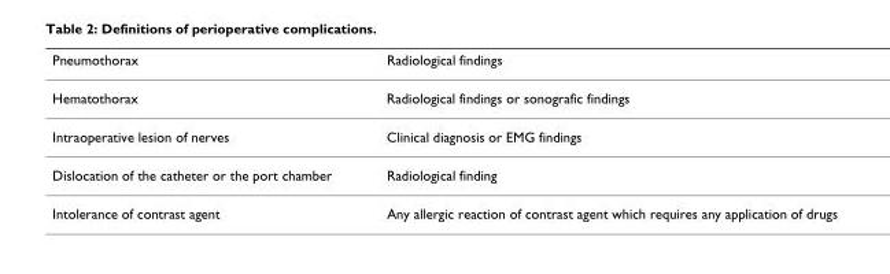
<table><thead><tr><td>Pneumothorax</td><td>Radiological findings</td></tr></thead><tbody><tr><td>Hematothorax</td><td>Radiological findings or sonografic findings</td></tr><tr><td>Intraoperative lesion of nerves</td><td>Clinical diagnosis or EMG findings</td></tr><tr><td>Dislocation of the catheter or the port chamber</td><td>Radiological finding</td></tr><tr><td>Intolerance of contrast agent</td><td>Any allergic reaction of contrast agent which requires any application of drugs</td></tr></tbody></table>